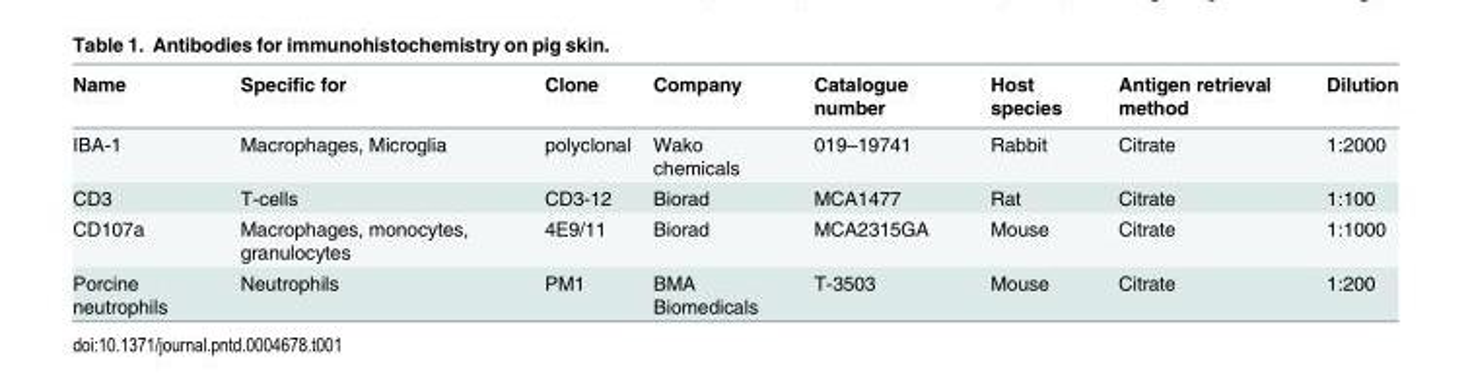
<table><thead><tr><td>Name</td><td>Specific for</td><td>Clone</td><td>Company</td><td>Catalogue number</td><td>Host species</td><td>Antigen retrieval method</td><td>Dilution</td></tr></thead><tbody><tr><td>IBA-1</td><td>Macrophages, Microglia</td><td>polyclonal</td><td>Wako chemicals</td><td>019–19741</td><td>Rabbit</td><td>Citrate</td><td>1:2000</td></tr><tr><td>CD3</td><td>T-cells</td><td>CD3-12</td><td>Biorad</td><td>MCA1477</td><td>Rat</td><td>Citrate</td><td>1:100</td></tr><tr><td>CD107a</td><td>Macrophages, monocytes, granulocytes</td><td>4E9/11</td><td>Biorad</td><td>MCA2315GA</td><td>Mouse</td><td>Citrate</td><td>1:1000</td></tr><tr><td>Porcine neutrophils</td><td>Neutrophils</td><td>PM1</td><td>BMA Biomedicals</td><td>T-3503</td><td>Mouse</td><td>Citrate</td><td>1:200</td></tr></tbody></table>